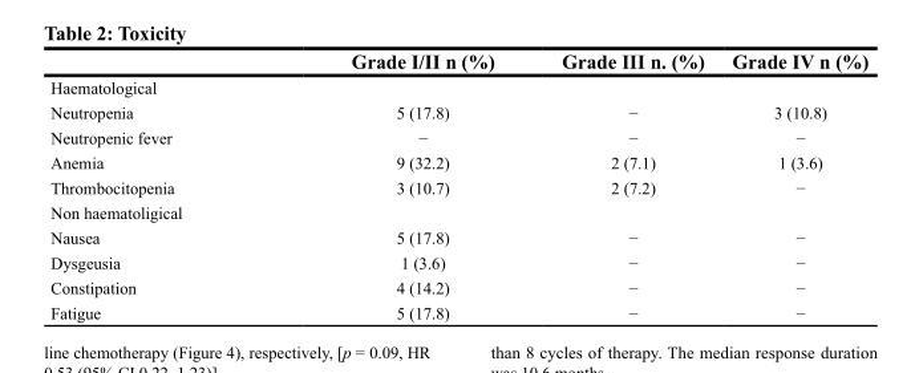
<table><thead><tr><td></td><td>Grade I/II n (%)</td><td>Grade III n. (%)</td><td>Grade IV n (%)</td></tr></thead><tbody><tr><td colspan="4">Haematological</td></tr><tr><td>Neutropenia</td><td>5 (17.8)</td><td>−</td><td>3 (10.8)</td></tr><tr><td>Neutropenic fever</td><td>−</td><td>−</td><td>−</td></tr><tr><td>Anemia</td><td>9 (32.2)</td><td>2 (7.1)</td><td>1 (3.6)</td></tr><tr><td>Thrombocitopenia</td><td>3 (10.7)</td><td>2 (7.2)</td><td>−</td></tr><tr><td colspan="4">Non haematoligical</td></tr><tr><td>Nausea</td><td>5 (17.8)</td><td>−</td><td>−</td></tr><tr><td>Dysgeusia</td><td>1 (3.6)</td><td>−</td><td>−</td></tr><tr><td>Constipation</td><td>4 (14.2)</td><td>−</td><td>−</td></tr><tr><td>Fatigue</td><td>5 (17.8)</td><td>−</td><td>−</td></tr></tbody></table>